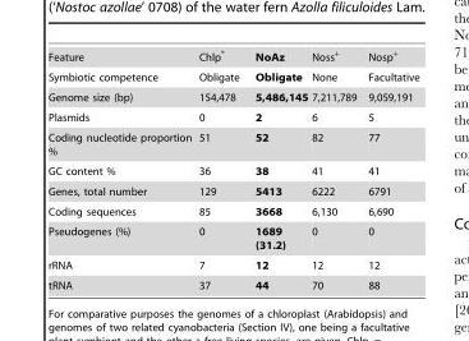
<table><tbody><tr><td>Feature</td><td>Chlp*</td><td>NoAz</td><td>Noss+</td><td>Nosp+</td></tr><tr><td>Symbiotic competence</td><td>Obligate</td><td>Obligate</td><td>None</td><td>Facultative</td></tr><tr><td>Genome size (bp)</td><td>154,478</td><td>5,486,145</td><td>7,211,789</td><td>9,059,191</td></tr><tr><td>Plasmids</td><td>0</td><td>2</td><td>6</td><td>5</td></tr><tr><td>Coding nucleotide proportion %</td><td>51</td><td>52</td><td>82</td><td>77</td></tr><tr><td>GC content %</td><td>36</td><td>38</td><td>41</td><td>41</td></tr><tr><td>Genes, total number</td><td>129</td><td>5413</td><td>6222</td><td>6791</td></tr><tr><td>Coding sequences</td><td>85</td><td>3668</td><td>6,130</td><td>6,690</td></tr><tr><td>Pseudogenes (%)</td><td>0</td><td>1689 (31.2)</td><td>0</td><td>0</td></tr><tr><td>rRNA</td><td>7</td><td>12</td><td>12</td><td>12</td></tr><tr><td>tRNA</td><td>37</td><td>44</td><td>70</td><td>88</td></tr></tbody></table>